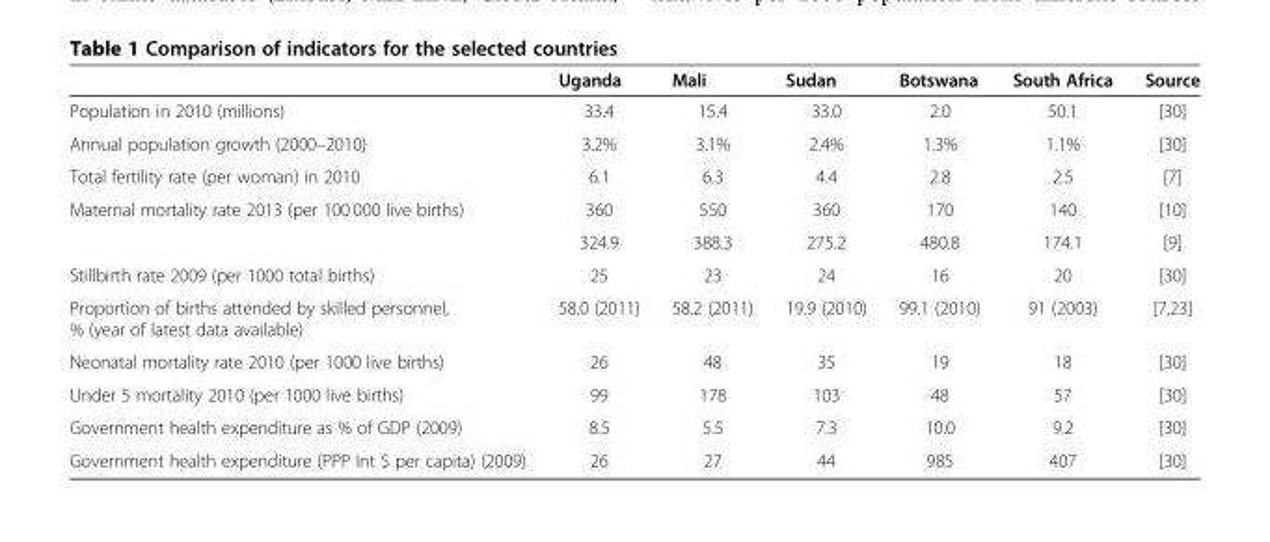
<table><thead><tr><td></td><td>Uganda</td><td>Mali</td><td>Sudan</td><td>Botswana</td><td>South Africa</td><td>Source</td></tr></thead><tbody><tr><td>Population in 2010 (millions)</td><td>33.4</td><td>15.4</td><td>33.0</td><td>2.0</td><td>50.1</td><td>[30]</td></tr><tr><td>Annual population growth (2000–2010)</td><td>3.2%</td><td>3.1%</td><td>2.4%</td><td>1.3%</td><td>1.1%</td><td>[30]</td></tr><tr><td>Total fertility rate (per woman) in 2010</td><td>6.1</td><td>6.3</td><td>4.4</td><td>2.8</td><td>2.5</td><td>[7]</td></tr><tr><td rowspan="2">Maternal mortality rate 2013 (per 100 000 live births)</td><td>360</td><td>550</td><td>360</td><td>170</td><td>140</td><td>[10]</td></tr><tr><td>324.9</td><td>388.3</td><td>275.2</td><td>480.8</td><td>174.1</td><td>[9]</td></tr><tr><td>Stillbirth rate 2009 (per 1000 total births)</td><td>25</td><td>23</td><td>24</td><td>16</td><td>20</td><td>[30]</td></tr><tr><td>Proportion of births attended by skilled personnel, % (year of latest data available)</td><td>58.0 (2011)</td><td>58.2 (2011)</td><td>19.9 (2010)</td><td>99.1 (2010)</td><td>91 (2003)</td><td>[7,23]</td></tr><tr><td>Neonatal mortality rate 2010 (per 1000 live births)</td><td>26</td><td>48</td><td>35</td><td>19</td><td>18</td><td>[30]</td></tr><tr><td>Under 5 mortality 2010 (per 1000 live births)</td><td>99</td><td>178</td><td>103</td><td>48</td><td>57</td><td>[30]</td></tr><tr><td>Government health expenditure as % of GDP (2009)</td><td>8.5</td><td>5.5</td><td>7.3</td><td>10.0</td><td>9.2</td><td>[30]</td></tr><tr><td>Government health expenditure (PPP Int $ per capita) (2009)</td><td>26</td><td>27</td><td>44</td><td>985</td><td>407</td><td>[30]</td></tr></tbody></table>